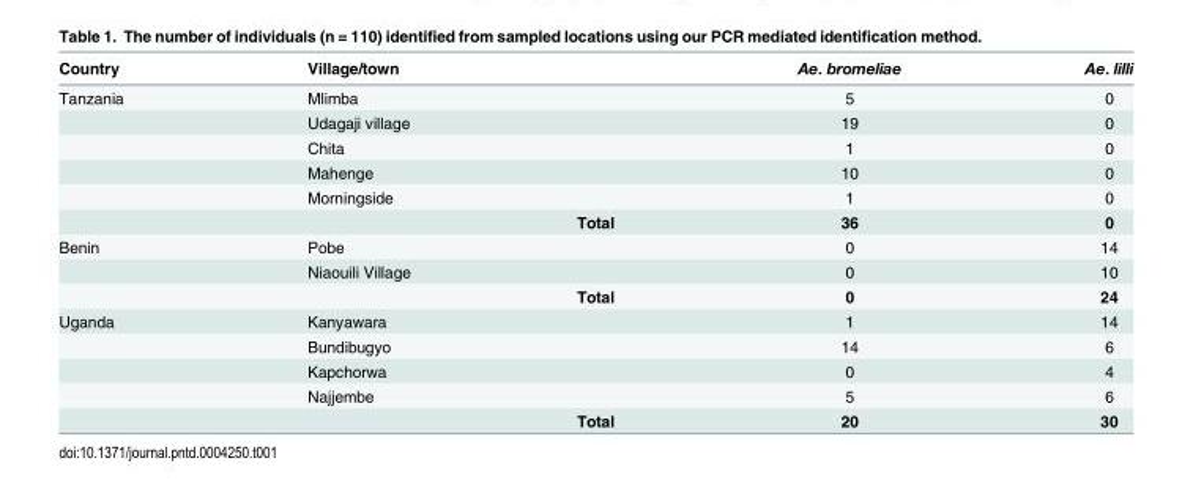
<table><thead><tr><td rowspan="2">Country Tanzania</td><td colspan="2">Village/town</td><td rowspan="2">Ae. bromeliae 5</td><td rowspan="2">Ae. lilli 0</td></tr><tr><td>Mlimba</td><td></td></tr></thead><tbody><tr><td></td><td colspan="2">Udagaji village</td><td>19</td><td>0</td></tr><tr><td></td><td>Chita</td><td></td><td>1</td><td>0</td></tr><tr><td></td><td>Mahenge</td><td></td><td>10</td><td>0</td></tr><tr><td></td><td>Morningside</td><td></td><td>1</td><td>0</td></tr><tr><td></td><td></td><td>Total</td><td>36</td><td>0</td></tr><tr><td rowspan="3">Benin</td><td>Pobe</td><td></td><td>0</td><td>14</td></tr><tr><td colspan="2">Niaouili Village</td><td>0</td><td>10</td></tr><tr><td></td><td>Total</td><td>0</td><td>24</td></tr><tr><td rowspan="5">Uganda</td><td>Kanyawara</td><td></td><td>1</td><td>14</td></tr><tr><td>Bundibugyo</td><td></td><td>14</td><td>6</td></tr><tr><td>Kapchorwa</td><td></td><td>0</td><td>4</td></tr><tr><td>Najjembe</td><td></td><td>5</td><td>6</td></tr><tr><td></td><td>Total</td><td>20</td><td>30</td></tr></tbody></table>